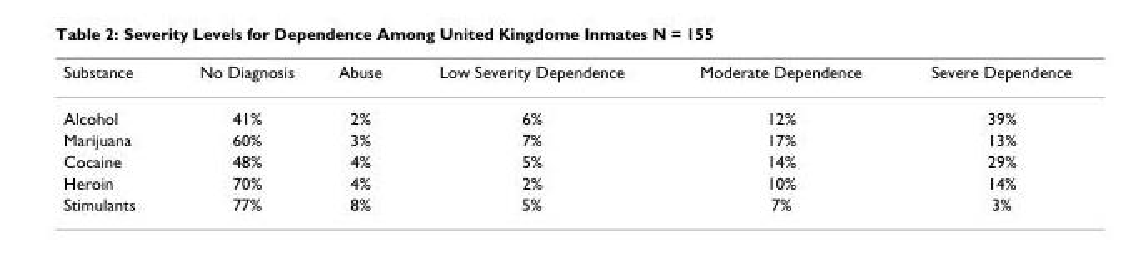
<table><thead><tr><td>Substance</td><td>No Diagnosis</td><td>Abuse</td><td>Low Severity Dependence</td><td>Moderate Dependence</td><td>Severe Dependence</td></tr></thead><tbody><tr><td>Alcohol</td><td>41%</td><td>2%</td><td>6%</td><td>12%</td><td>39%</td></tr><tr><td>Marijuana</td><td>60%</td><td>3%</td><td>7%</td><td>17%</td><td>13%</td></tr><tr><td>Cocaine</td><td>48%</td><td>4%</td><td>5%</td><td>14%</td><td>29%</td></tr><tr><td>Heroin</td><td>70%</td><td>4%</td><td>2%</td><td>10%</td><td>14%</td></tr><tr><td>Stimulants</td><td>77%</td><td>8%</td><td>5%</td><td>7%</td><td>3%</td></tr></tbody></table>